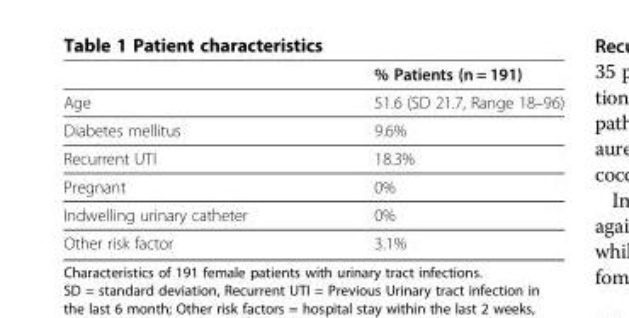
<table><thead><tr><td></td><td>% Patients (n = 191)</td></tr></thead><tbody><tr><td>Age</td><td>51.6 (SD 21.7, Range 18–96)</td></tr><tr><td>Diabetes mellitus</td><td>9.6%</td></tr><tr><td>Recurrent UTI</td><td>18.3%</td></tr><tr><td>Pregnant</td><td>0%</td></tr><tr><td>Indwelling urinary catheter</td><td>0%</td></tr><tr><td>Other risk factor</td><td>3.1%</td></tr></tbody></table>